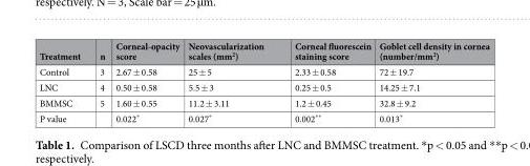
<table><thead><tr><td>Treatment</td><td>n</td><td>Corneal-opacity score</td><td>Neovascularization scales (mm<sup>2</sup>)</td><td>Corneal fluorescein staining score</td><td>Goblet cell density in cornea (number/mm<sup>2</sup>)</td></tr></thead><tbody><tr><td>Control</td><td>3</td><td>2.67 ± 0.58</td><td>25 ± 5</td><td>2.33 ± 0.58</td><td>72 ± 19.7</td></tr><tr><td>LNC</td><td>4</td><td>0.50 ± 0.58</td><td>5.5 ± 3</td><td>0.25 ± 0.5</td><td>14.25 ± 7.1</td></tr><tr><td>BMMSC</td><td>5</td><td>1.60 ± 0.55</td><td>11.2 ± 3.11</td><td>1.2 ± 0.45</td><td>32.8 ± 9.2</td></tr><tr><td>P value</td><td></td><td>0.022*</td><td>0.027*</td><td>0.002**</td><td>0.013*</td></tr></tbody></table>